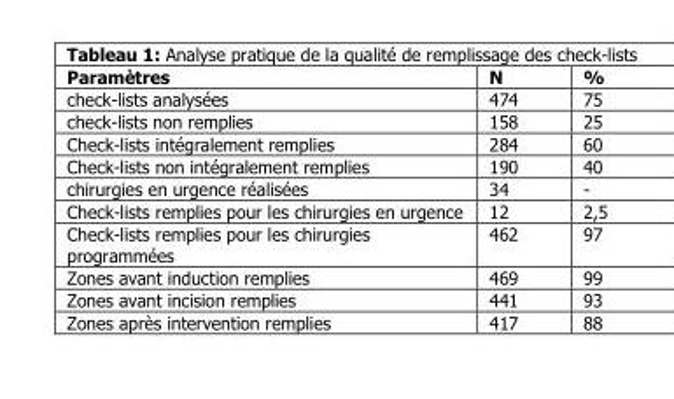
<table><thead><tr><td>Paramètres</td><td>N</td><td>%</td></tr></thead><tbody><tr><td>check-lists analysées</td><td>474</td><td>75</td></tr><tr><td>check-lists non remplies</td><td>158</td><td>25</td></tr><tr><td>Check-lists intégralement remplies</td><td>284</td><td>60</td></tr><tr><td>Check-lists non intégralement remplies</td><td>190</td><td>40</td></tr><tr><td>chirurgies en urgence réalisées</td><td>34</td><td>-</td></tr><tr><td>Check-lists remplies pour les chirurgies en urgence</td><td>12</td><td>2,5</td></tr><tr><td>Check-lists remplies pour les chirurgies programmées</td><td>462</td><td>97</td></tr><tr><td>Zones avant induction remplies</td><td>469</td><td>99</td></tr><tr><td>Zones avant incision remplies</td><td>441</td><td>93</td></tr><tr><td>Zones après intervention remplies</td><td>417</td><td>88</td></tr></tbody></table>